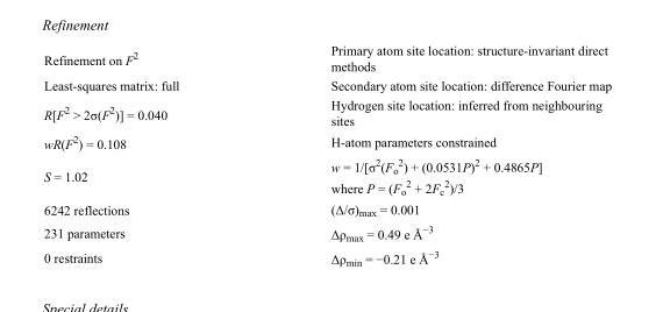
<table><tbody><tr><td>Refinement on F<sup>2</sup></td><td>Primary atom site location: structure-invariant direct methods</td></tr><tr><td>Least-squares matrix: full</td><td>Secondary atom site location: difference Fourier map</td></tr><tr><td>R[F<sup>2</sup> &gt; 2σ(F<sup>2</sup>)] = 0.040</td><td>Hydrogen site location: inferred from neighbouring sites</td></tr><tr><td>wR(F<sup>2</sup>) = 0.108</td><td>H-atom parameters constrained</td></tr><tr><td>S = 1.02</td><td>w = 1/[σ<sup>2</sup>(F<sub>o</sub> <sup>2</sup>) + (0.0531P)<sup>2</sup> + 0.4865P] where P = (F<sub>o</sub> <sup>2</sup> + 2F<sub>c</sub> <sup>2</sup>)/3</td></tr><tr><td>6242 reflections</td><td>(Δ/σ)<sub>max</sub> = 0.001</td></tr><tr><td>231 parameters</td><td>Δρ<sub>max</sub> = 0.49 e Å<sup>−3</sup></td></tr><tr><td>0 restraints</td><td>Δρ<sub>min</sub> = −0.21 e Å<sup>−3</sup></td></tr></tbody></table>